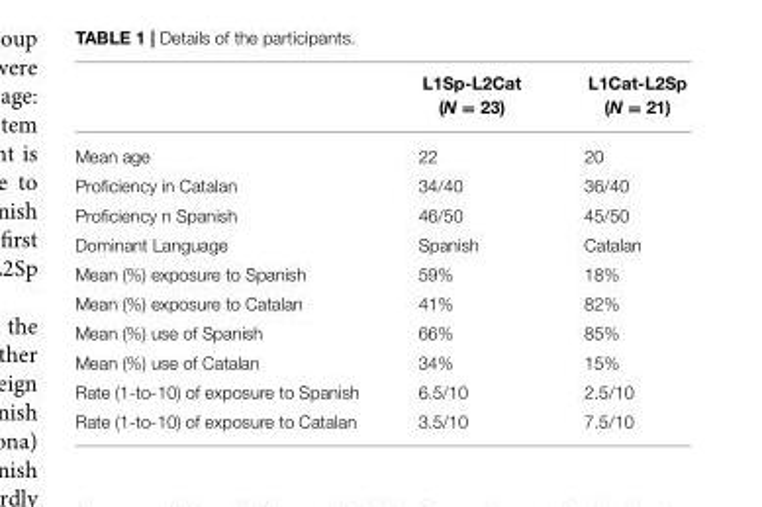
<table><thead><tr><td></td><td>L1Sp-L2Cat (N = 23)</td><td>L1Cat-L2Sp (N = 21)</td></tr></thead><tbody><tr><td>Mean age</td><td>22</td><td>20</td></tr><tr><td>Proficiency in Catalan</td><td>34/40</td><td>36/40</td></tr><tr><td>Proficiency n Spanish</td><td>46/50</td><td>45/50</td></tr><tr><td>Dominant Language</td><td>Spanish</td><td>Catalan</td></tr><tr><td>Mean (%) exposure to Spanish</td><td>59%</td><td>18%</td></tr><tr><td>Mean (%) exposure to Catalan</td><td>41%</td><td>82%</td></tr><tr><td>Mean (%) use of Spanish</td><td>66%</td><td>85%</td></tr><tr><td>Mean (%) use of Catalan</td><td>34%</td><td>15%</td></tr><tr><td>Rate (1-to-10) of exposure to Spanish</td><td>6.5/10</td><td>2.5/10</td></tr><tr><td>Rate (1-to-10) of exposure to Catalan</td><td>3.5/10</td><td>7.5/10</td></tr></tbody></table>